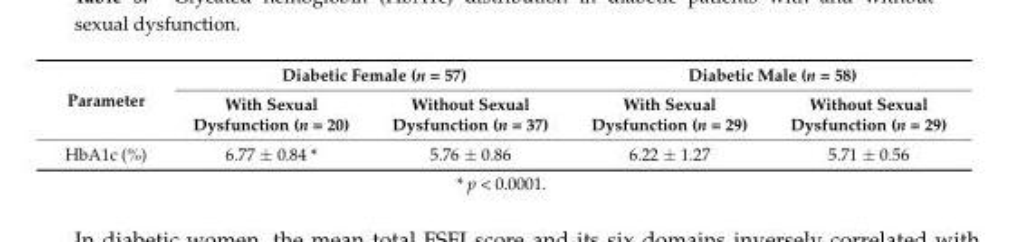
<table><thead><tr><td rowspan="2">Parameter</td><td colspan="2">Diabetic Female (n = 57)</td><td colspan="2">Diabetic Male (n = 58)</td></tr><tr><td>With Sexual Dysfunction (n = 20)</td><td>Without Sexual Dysfunction (n = 37)</td><td>With Sexual Dysfunction (n = 29)</td><td>Without Sexual Dysfunction (n = 29)</td></tr></thead><tbody><tr><td>HbA1c (%)</td><td>6.77 ± 0.84 *</td><td>5.76 ± 0.86</td><td>6.22 ± 1.27</td><td>5.71 ± 0.56</td></tr></tbody></table>